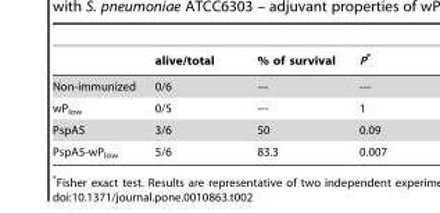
<table><thead><tr><td></td><td>alive/total</td><td>% of survival</td><td>P*</td></tr></thead><tbody><tr><td>Non-immunized</td><td>0/6</td><td>---</td><td>---</td></tr><tr><td>wP<sub>low</sub></td><td>0/5</td><td>---</td><td>1</td></tr><tr><td>PspA5</td><td>3/6</td><td>50</td><td>0.09</td></tr><tr><td>PspA5-wP<sub>low</sub></td><td>5/6</td><td>83.3</td><td>0.007</td></tr></tbody></table>